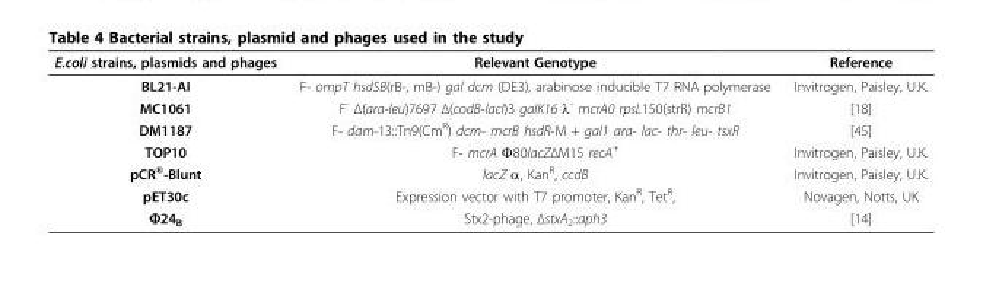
<table><thead><tr><td>E.coli strains, plasmids and phages</td><td>Relevant Genotype</td><td>Reference</td></tr></thead><tbody><tr><td>BL21-AI</td><td>F- ompT hsdSB(rB-, mB-) gal dcm (DE3), arabinose inducible T7 RNA polymerase</td><td>Invitrogen, Paisley, U.K.</td></tr><tr><td>MC1061</td><td>F<sup>-</sup> Δ(ara-leu)7697 Δ(codB-lacI)3 galK16 λ<sup>-</sup> mcrA0 rpsL150(strR) mcrB1</td><td>[18]</td></tr><tr><td>DM1187</td><td>F- dam-13::Tn9(Cm<sup>R</sup>) dcm- mcrB hsdR-M + gal1 ara- lac- thr- leu- tsxR</td><td>[45]</td></tr><tr><td>TOP10</td><td>F- mcrA Φ80lacZΔM15 recA<sup>+</sup></td><td>Invitrogen, Paisley, U.K.</td></tr><tr><td>pCR<sup>®</sup>-Blunt</td><td>lacZ α, Kan<sup>R</sup>, ccdB</td><td>Invitrogen, Paisley, U.K.</td></tr><tr><td>pET30c</td><td>Expression vector with T7 promoter, Kan<sup>R</sup>, Tet<sup>R</sup>,</td><td>Novagen, Notts, UK</td></tr><tr><td>Φ24<sub>B</sub></td><td>Stx2-phage, ΔstxA<sub>2</sub>::aph3</td><td>[14]</td></tr></tbody></table>